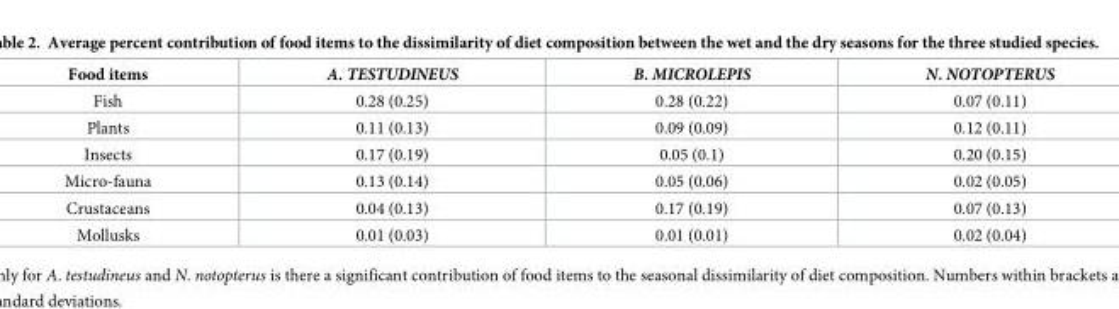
<table><thead><tr><td>Food items</td><td>A. TESTUDINEUS</td><td>B. MICROLEPIS</td><td>N. NOTOPTERUS</td></tr></thead><tbody><tr><td>Fish</td><td>0.28 (0.25)</td><td>0.28 (0.22)</td><td>0.07 (0.11)</td></tr><tr><td>Plants</td><td>0.11 (0.13)</td><td>0.09 (0.09)</td><td>0.12 (0.11)</td></tr><tr><td>Insects</td><td>0.17 (0.19)</td><td>0.05 (0.1)</td><td>0.20 (0.15)</td></tr><tr><td>Micro-fauna</td><td>0.13 (0.14)</td><td>0.05 (0.06)</td><td>0.02 (0.05)</td></tr><tr><td>Crustaceans</td><td>0.04 (0.13)</td><td>0.17 (0.19)</td><td>0.07 (0.13)</td></tr><tr><td>Mollusks</td><td>0.01 (0.03)</td><td>0.01 (0.01)</td><td>0.02 (0.04)</td></tr></tbody></table>